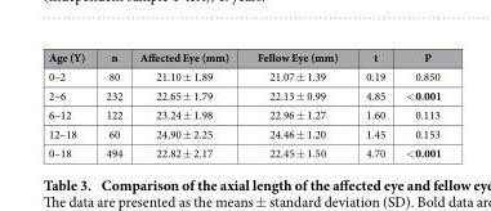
<table><thead><tr><td>Age (Y)</td><td>n</td><td>Affected Eye (mm)</td><td>Fellow Eye (mm)</td><td>t</td><td>P</td></tr></thead><tbody><tr><td>0–2</td><td>80</td><td>21.10 ± 1.89</td><td>21.07 ± 1.39</td><td>0.19</td><td>0.850</td></tr><tr><td>2–6</td><td>232</td><td>22.65 ± 1.79</td><td>22.13 ± 0.99</td><td>4.85</td><td>&lt; 0.001</td></tr><tr><td>6–12</td><td>122</td><td>23.24 ± 1.98</td><td>22.96 ± 1.27</td><td>1.60</td><td>0.113</td></tr><tr><td>12–18</td><td>60</td><td>24.90 ± 2.25</td><td>24.46 ± 1.20</td><td>1.45</td><td>0.153</td></tr><tr><td>0–18</td><td>494</td><td>22.82 ± 2.17</td><td>22.45 ± 1.50</td><td>4.70</td><td>&lt; 0.001</td></tr></tbody></table>